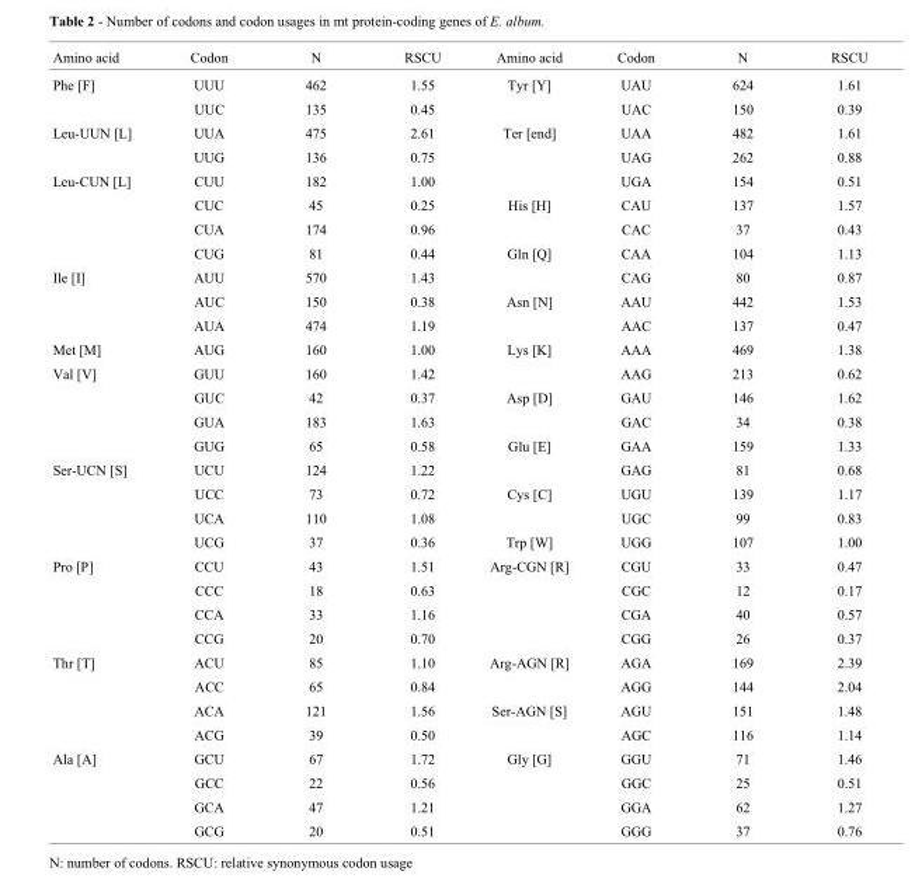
<table><thead><tr><td>Amino acid</td><td>Codon</td><td>N</td><td>RSCU</td><td>Amino acid</td><td>Codon</td><td>N</td><td>RSCU</td></tr></thead><tbody><tr><td rowspan="2">Phe [F]</td><td>UUU</td><td>462</td><td>1.55</td><td>Tyr [Y]</td><td>UAU</td><td>624</td><td>1.61</td></tr><tr><td>UUC</td><td>135</td><td>0.45</td><td></td><td>UAC</td><td>150</td><td>0.39</td></tr><tr><td rowspan="2">Leu-UUN [L]</td><td>UUA</td><td>475</td><td>2.61</td><td>Ter [end]</td><td>UAA</td><td>482</td><td>1.61</td></tr><tr><td>UUG</td><td>136</td><td>0.75</td><td></td><td>UAG</td><td>262</td><td>0.88</td></tr><tr><td rowspan="4">Leu-CUN [L]</td><td>CUU</td><td>182</td><td>1.00</td><td></td><td>UGA</td><td>154</td><td>0.51</td></tr><tr><td>CUC</td><td>45</td><td>0.25</td><td>His [H]</td><td>CAU</td><td>137</td><td>1.57</td></tr><tr><td>CUA</td><td>174</td><td>0.96</td><td></td><td>CAC</td><td>37</td><td>0.43</td></tr><tr><td>CUG</td><td>81</td><td>0.44</td><td>Gln [Q]</td><td>CAA</td><td>104</td><td>1.13</td></tr><tr><td rowspan="3">Ile [I]</td><td>AUU</td><td>570</td><td>1.43</td><td></td><td>CAG</td><td>80</td><td>0.87</td></tr><tr><td>AUC</td><td>150</td><td>0.38</td><td>Asn [N]</td><td>AAU</td><td>442</td><td>1.53</td></tr><tr><td>AUA</td><td>474</td><td>1.19</td><td></td><td>AAC</td><td>137</td><td>0.47</td></tr><tr><td>Met [M]</td><td>AUG</td><td>160</td><td>1.00</td><td>Lys [K]</td><td>AAA</td><td>469</td><td>1.38</td></tr><tr><td rowspan="4">Val [V]</td><td>GUU</td><td>160</td><td>1.42</td><td></td><td>AAG</td><td>213</td><td>0.62</td></tr><tr><td>GUC</td><td>42</td><td>0.37</td><td>Asp [D]</td><td>GAU</td><td>146</td><td>1.62</td></tr><tr><td>GUA</td><td>183</td><td>1.63</td><td></td><td>GAC</td><td>34</td><td>0.38</td></tr><tr><td>GUG</td><td>65</td><td>0.58</td><td>Glu [E]</td><td>GAA</td><td>159</td><td>1.33</td></tr><tr><td rowspan="4">Ser-UCN [S]</td><td>UCU</td><td>124</td><td>1.22</td><td></td><td>GAG</td><td>81</td><td>0.68</td></tr><tr><td>UCC</td><td>73</td><td>0.72</td><td>Cys [C]</td><td>UGU</td><td>139</td><td>1.17</td></tr><tr><td>UCA</td><td>110</td><td>1.08</td><td></td><td>UGC</td><td>99</td><td>0.83</td></tr><tr><td>UCG</td><td>37</td><td>0.36</td><td>Trp [W]</td><td>UGG</td><td>107</td><td>1.00</td></tr><tr><td rowspan="4">Pro [P]</td><td>CCU</td><td>43</td><td>1.51</td><td>Arg-CGN [R]</td><td>CGU</td><td>33</td><td>0.47</td></tr><tr><td>CCC</td><td>18</td><td>0.63</td><td></td><td>CGC</td><td>12</td><td>0.17</td></tr><tr><td>CCA</td><td>33</td><td>1.16</td><td></td><td>CGA</td><td>40</td><td>0.57</td></tr><tr><td>CCG</td><td>20</td><td>0.70</td><td></td><td>CGG</td><td>26</td><td>0.37</td></tr><tr><td rowspan="4">Thr [T]</td><td>ACU</td><td>85</td><td>1.10</td><td>Arg-AGN [R]</td><td>AGA</td><td>169</td><td>2.39</td></tr><tr><td>ACC</td><td>65</td><td>0.84</td><td></td><td>AGG</td><td>144</td><td>2.04</td></tr><tr><td>ACA</td><td>121</td><td>1.56</td><td>Ser-AGN [S]</td><td>AGU</td><td>151</td><td>1.48</td></tr><tr><td>ACG</td><td>39</td><td>0.50</td><td></td><td>AGC</td><td>116</td><td>1.14</td></tr><tr><td rowspan="4">Ala [A]</td><td>GCU</td><td>67</td><td>1.72</td><td>Gly [G]</td><td>GGU</td><td>71</td><td>1.46</td></tr><tr><td>GCC</td><td>22</td><td>0.56</td><td></td><td>GGC</td><td>25</td><td>0.51</td></tr><tr><td>GCA</td><td>47</td><td>1.21</td><td></td><td>GGA</td><td>62</td><td>1.27</td></tr><tr><td>GCG</td><td>20</td><td>0.51</td><td></td><td>GGG</td><td>37</td><td>0.76</td></tr></tbody></table>